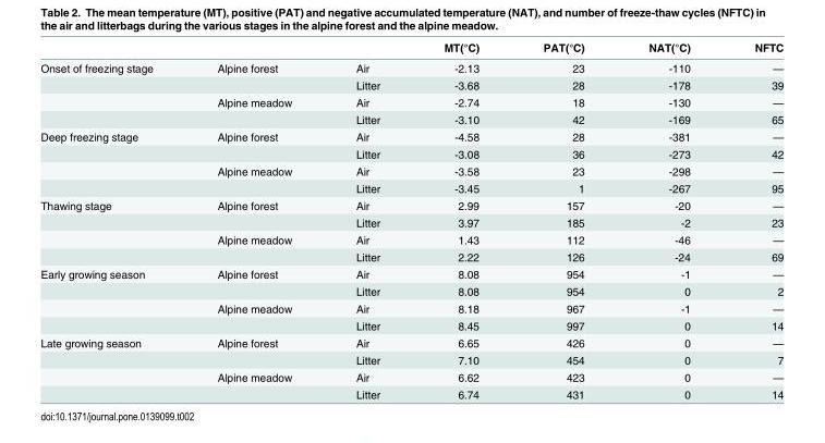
<table><thead><tr><td></td><td></td><td></td><td>MT(°C)</td><td>PAT(°C)</td><td>NAT(°C)</td><td>NFTC</td></tr></thead><tbody><tr><td rowspan="4">Onset of freezing stage</td><td>Alpine forest</td><td>Air</td><td>-2.13</td><td>23</td><td>-110</td><td>—</td></tr><tr><td></td><td>Litter</td><td>-3.68</td><td>28</td><td>-178</td><td>39</td></tr><tr><td>Alpine meadow</td><td>Air</td><td>-2.74</td><td>18</td><td>-130</td><td>—</td></tr><tr><td></td><td>Litter</td><td>-3.10</td><td>42</td><td>-169</td><td>65</td></tr><tr><td rowspan="4">Deep freezing stage</td><td>Alpine forest</td><td>Air</td><td>-4.58</td><td>28</td><td>-381</td><td>—</td></tr><tr><td></td><td>Litter</td><td>-3.08</td><td>36</td><td>-273</td><td>42</td></tr><tr><td>Alpine meadow</td><td>Air</td><td>-3.58</td><td>23</td><td>-298</td><td>—</td></tr><tr><td></td><td>Litter</td><td>-3.45</td><td>1</td><td>-267</td><td>95</td></tr><tr><td rowspan="4">Thawing stage</td><td>Alpine forest</td><td>Air</td><td>2.99</td><td>157</td><td>-20</td><td>—</td></tr><tr><td></td><td>Litter</td><td>3.97</td><td>185</td><td>-2</td><td>23</td></tr><tr><td>Alpine meadow</td><td>Air</td><td>1.43</td><td>112</td><td>-46</td><td>—</td></tr><tr><td></td><td>Litter</td><td>2.22</td><td>126</td><td>-24</td><td>69</td></tr><tr><td rowspan="4">Early growing season</td><td>Alpine forest</td><td>Air</td><td>8.08</td><td>954</td><td>-1</td><td>—</td></tr><tr><td></td><td>Litter</td><td>8.08</td><td>954</td><td>0</td><td>2</td></tr><tr><td>Alpine meadow</td><td>Air</td><td>8.18</td><td>967</td><td>-1</td><td>—</td></tr><tr><td></td><td>Litter</td><td>8.45</td><td>997</td><td>0</td><td>14</td></tr><tr><td rowspan="4">Late growing season</td><td>Alpine forest</td><td>Air</td><td>6.65</td><td>426</td><td>0</td><td>—</td></tr><tr><td></td><td>Litter</td><td>7.10</td><td>454</td><td>0</td><td>7</td></tr><tr><td>Alpine meadow</td><td>Air</td><td>6.62</td><td>423</td><td>0</td><td>—</td></tr><tr><td></td><td>Litter</td><td>6.74</td><td>431</td><td>0</td><td>14</td></tr></tbody></table>